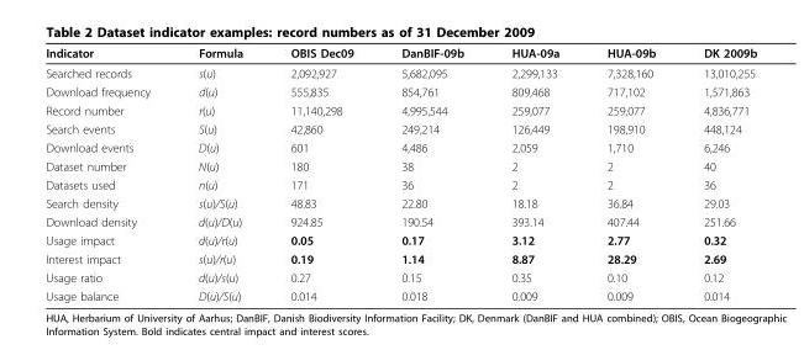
<table><thead><tr><td>Indicator</td><td>Formula</td><td>OBIS Dec09</td><td>DanBIF-09b</td><td>HUA-09a</td><td>HUA-09b</td><td>DK 2009b</td></tr></thead><tbody><tr><td>Searched records</td><td>s(u)</td><td>2,092,927</td><td>5,682,095</td><td>2,299,133</td><td>7,328,160</td><td>13,010,255</td></tr><tr><td>Download frequency</td><td>d(u)</td><td>555,835</td><td>854,761</td><td>809,468</td><td>717,102</td><td>1,571,863</td></tr><tr><td>Record number</td><td>r(u)</td><td>11,140,298</td><td>4,995,544</td><td>259,077</td><td>259,077</td><td>4,836,771</td></tr><tr><td>Search events</td><td>S(u)</td><td>42,860</td><td>249,214</td><td>126,449</td><td>198,910</td><td>448,124</td></tr><tr><td>Download events</td><td>D(u)</td><td>601</td><td>4,486</td><td>2,059</td><td>1,710</td><td>6,246</td></tr><tr><td>Dataset number</td><td>N(u)</td><td>180</td><td>38</td><td>2</td><td>2</td><td>40</td></tr><tr><td>Datasets used</td><td>n(u)</td><td>171</td><td>36</td><td>2</td><td>2</td><td>36</td></tr><tr><td>Search density</td><td>s(u)/S(u)</td><td>48.83</td><td>22.80</td><td>18.18</td><td>36.84</td><td>29.03</td></tr><tr><td>Download density</td><td>d(u)/D(u)</td><td>924.85</td><td>190.54</td><td>393.14</td><td>407.44</td><td>251.66</td></tr><tr><td>Usage impact</td><td>d(u)/r(u)</td><td>0.05</td><td>0.17</td><td>3.12</td><td>2.77</td><td>0.32</td></tr><tr><td>Interest impact</td><td>s(u)/r(u)</td><td>0.19</td><td>1.14</td><td>8.87</td><td>28.29</td><td>2.69</td></tr><tr><td>Usage ratio</td><td>d(u)/s(u)</td><td>0.27</td><td>0.15</td><td>0.35</td><td>0.10</td><td>0.12</td></tr><tr><td>Usage balance</td><td>D(u)/S(u)</td><td>0.014</td><td>0.018</td><td>0.009</td><td>0.009</td><td>0.014</td></tr></tbody></table>